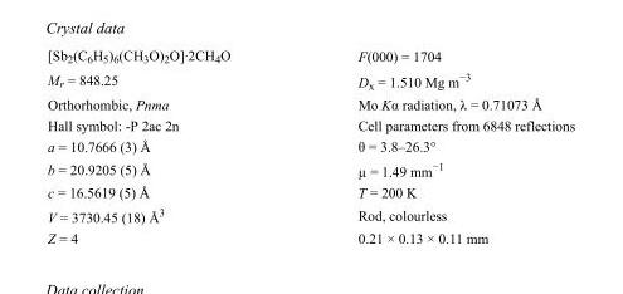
<table><tbody><tr><td>[Sb<sub>2</sub>(C<sub>6</sub>H<sub>5</sub>)<sub>6</sub>(CH<sub>3</sub>O)<sub>2</sub>O]·2CH<sub>4</sub>O</td><td>F(000) = 1704</td></tr><tr><td>M<sub>r</sub> = 848.25</td><td>D<sub>x</sub> = 1.510 Mg m<sup>−3</sup></td></tr><tr><td>Orthorhombic, Pnma</td><td>Mo Kα radiation, λ = 0.71073 Å</td></tr><tr><td>Hall symbol: -P 2ac 2n</td><td>Cell parameters from 6848 reflections</td></tr><tr><td>a = 10.7666 (3) Å</td><td>θ = 3.8–26.3°</td></tr><tr><td>b = 20.9205 (5) Å</td><td>µ = 1.49 mm<sup>−1</sup></td></tr><tr><td>c = 16.5619 (5) Å</td><td>T = 200 K</td></tr><tr><td>V = 3730.45 (18) Å<sup>3</sup></td><td>Rod, colourless</td></tr><tr><td>Z = 4</td><td>0.21 × 0.13 × 0.11 mm</td></tr></tbody></table>